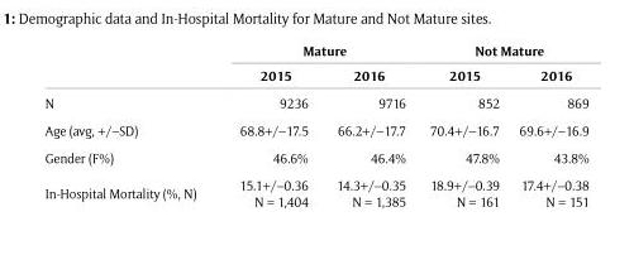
<table><thead><tr><td rowspan="2"></td><td colspan="2">Mature</td><td colspan="2">Not Mature</td></tr><tr><td>2015</td><td>2016</td><td>2015</td><td>2016</td></tr></thead><tbody><tr><td>N</td><td>9236</td><td>9716</td><td>852</td><td>869</td></tr><tr><td>Age (avg, +/–SD)</td><td>68.8+/–17.5</td><td>66.2+/–17.7</td><td>70.4+/–16.7</td><td>69.6+/–16.9</td></tr><tr><td>Gender (F%)</td><td>46.6%</td><td>46.4%</td><td>47.8%</td><td>43.8%</td></tr><tr><td>In-Hospital Mortality (%, N)</td><td>15.1+/–0.36 N = 1,404</td><td>14.3+/–0.35 N = 1,385</td><td>18.9+/–0.39 N = 161</td><td>17.4+/–0.38 N = 151</td></tr></tbody></table>